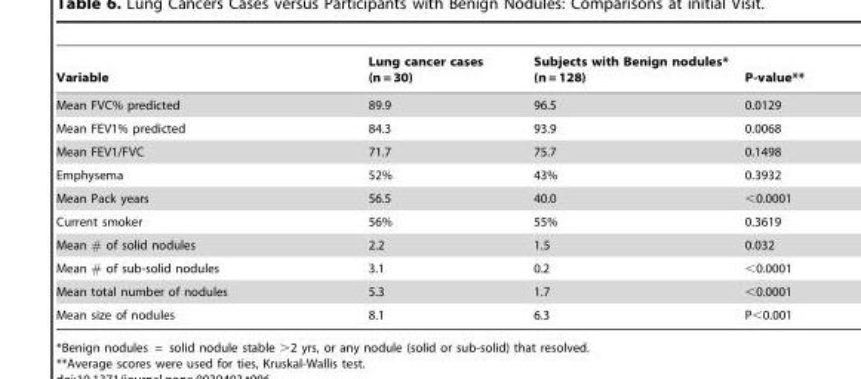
<table><thead><tr><td>Variable</td><td>Lung cancer cases (n = 30)</td><td>Subjects with Benign nodules* (n = 128)</td><td>P-value**</td></tr></thead><tbody><tr><td>Mean FVC% predicted</td><td>89.9</td><td>96.5</td><td>0.0129</td></tr><tr><td>Mean FEV1% predicted</td><td>84.3</td><td>93.9</td><td>0.0068</td></tr><tr><td>Mean FEV1/FVC</td><td>71.7</td><td>75.7</td><td>0.1498</td></tr><tr><td>Emphysema</td><td>52%</td><td>43%</td><td>0.3932</td></tr><tr><td>Mean Pack years</td><td>56.5</td><td>40.0</td><td>&lt;0.0001</td></tr><tr><td>Current smoker</td><td>56%</td><td>55%</td><td>0.3619</td></tr><tr><td>Mean # of solid nodules</td><td>2.2</td><td>1.5</td><td>0.032</td></tr><tr><td>Mean # of sub-solid nodules</td><td>3.1</td><td>0.2</td><td>&lt;0.0001</td></tr><tr><td>Mean total number of nodules</td><td>5.3</td><td>1.7</td><td>&lt;0.0001</td></tr><tr><td>Mean size of nodules</td><td>8.1</td><td>6.3</td><td>P&lt;0.001</td></tr></tbody></table>